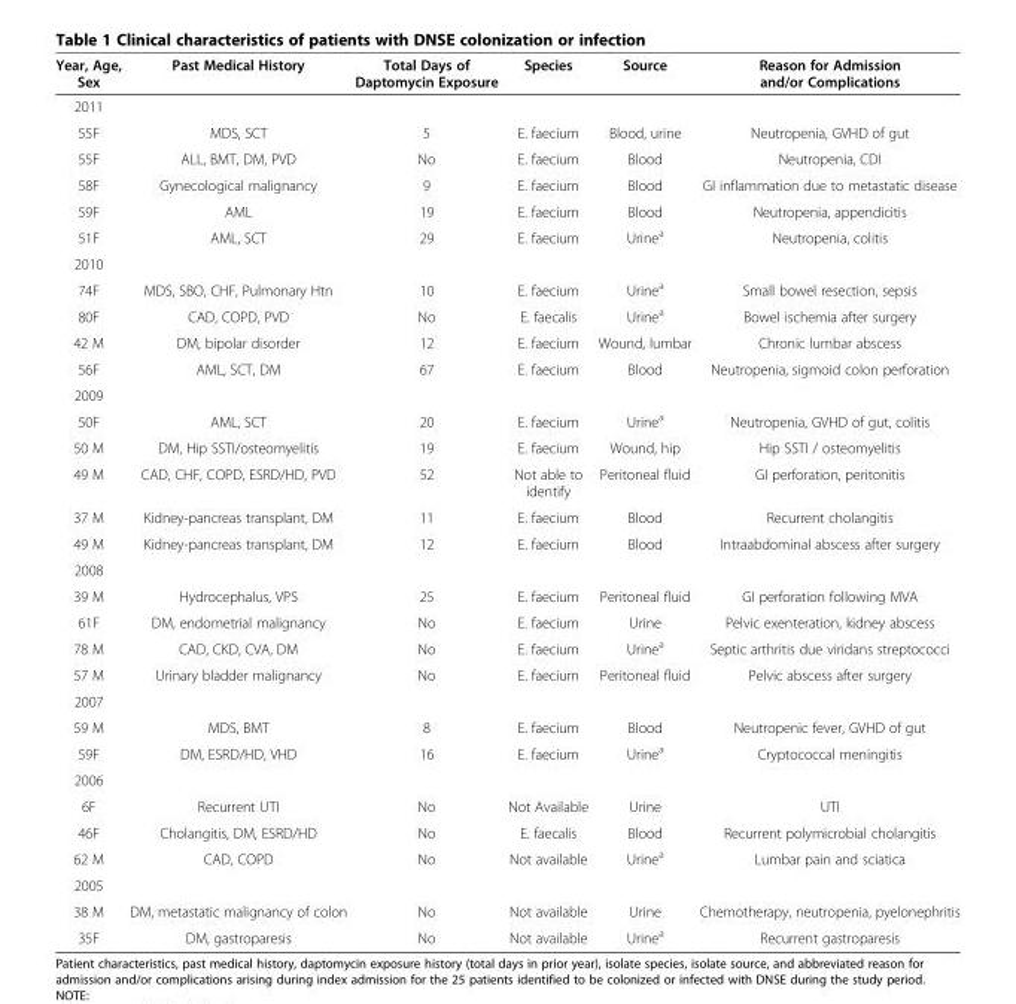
<table><thead><tr><td>Year, Age, Sex</td><td>Past Medical History</td><td>Total Days of Daptomycin Exposure</td><td>Species</td><td>Source</td><td>Reason for Admission and/or Complications</td></tr></thead><tbody><tr><td colspan="6">2011</td></tr><tr><td>55F</td><td>MDS, SCT</td><td>5</td><td>E. faecium</td><td>Blood, urine</td><td>Neutropenia, GVHD of gut</td></tr><tr><td>55F</td><td>ALL, BMT, DM, PVD</td><td>No</td><td>E. faecium</td><td>Blood</td><td>Neutropenia, CDI</td></tr><tr><td>58F</td><td>Gynecological malignancy</td><td>9</td><td>E. faecium</td><td>Blood</td><td>GI inflammation due to metastatic disease</td></tr><tr><td>59F</td><td>AML</td><td>19</td><td>E. faecium</td><td>Blood</td><td>Neutropenia, appendicitis</td></tr><tr><td>51F</td><td>AML, SCT</td><td>29</td><td>E. faecium</td><td>Urine<sup>a</sup></td><td>Neutropenia, colitis</td></tr><tr><td colspan="6">2010</td></tr><tr><td>74F</td><td>MDS, SBO, CHF, Pulmonary Htn</td><td>10</td><td>E. faecium</td><td>Urine<sup>a</sup></td><td>Small bowel resection, sepsis</td></tr><tr><td>80F</td><td>CAD, COPD, PVD</td><td>No</td><td>E. faecalis</td><td>Urine<sup>a</sup></td><td>Bowel ischemia after surgery</td></tr><tr><td>42 M</td><td>DM, bipolar disorder</td><td>12</td><td>E. faecium</td><td>Wound, lumbar</td><td>Chronic lumbar abscess</td></tr><tr><td>56F</td><td>AML, SCT, DM</td><td>67</td><td>E. faecium</td><td>Blood</td><td>Neutropenia, sigmoid colon perforation</td></tr><tr><td colspan="6">2009</td></tr><tr><td>50F</td><td>AML, SCT</td><td>20</td><td>E. faecium</td><td>Urine<sup>a</sup></td><td>Neutropenia, GVHD of gut, colitis</td></tr><tr><td>50 M</td><td>DM, Hip SSTI/osteomyelitis</td><td>19</td><td>E. faecium</td><td>Wound, hip</td><td>Hip SSTI / osteomyelitis</td></tr><tr><td>49 M</td><td>CAD, CHF, COPD, ESRD/HD, PVD</td><td>52</td><td>Not able to identify</td><td>Peritoneal fluid</td><td>GI perforation, peritonitis</td></tr><tr><td>37 M</td><td>Kidney-pancreas transplant, DM</td><td>11</td><td>E. faecium</td><td>Blood</td><td>Recurrent cholangitis</td></tr><tr><td>49 M</td><td>Kidney-pancreas transplant, DM</td><td>12</td><td>E. faecium</td><td>Blood</td><td>Intraabdominal abscess after surgery</td></tr><tr><td colspan="6">2008</td></tr><tr><td>39 M</td><td>Hydrocephalus, VPS</td><td>25</td><td>E. faecium</td><td>Peritoneal fluid</td><td>GI perforation following MVA</td></tr><tr><td>61F</td><td>DM, endometrial malignancy</td><td>No</td><td>E. faecium</td><td>Urine</td><td>Pelvic exenteration, kidney abscess</td></tr><tr><td>78 M</td><td>CAD, CKD, CVA, DM</td><td>No</td><td>E. faecium</td><td>Urine<sup>a</sup></td><td>Septic arthritis due viridans streptococci</td></tr><tr><td>57 M</td><td>Urinary bladder malignancy</td><td>No</td><td>E. faecium</td><td>Peritoneal fluid</td><td>Pelvic abscess after surgery</td></tr><tr><td colspan="6">2007</td></tr><tr><td>59 M</td><td>MDS, BMT</td><td>8</td><td>E. faecium</td><td>Blood</td><td>Neutropenic fever, GVHD of gut</td></tr><tr><td>59F</td><td>DM, ESRD/HD, VHD</td><td>16</td><td>E. faecium</td><td>Urine<sup>a</sup></td><td>Cryptococcal meningitis</td></tr><tr><td colspan="6">2006</td></tr><tr><td>6F</td><td>Recurrent UTI</td><td>No</td><td>Not Available</td><td>Urine</td><td>UTI</td></tr><tr><td>46F</td><td>Cholangitis, DM, ESRD/HD</td><td>No</td><td>E. faecalis</td><td>Blood</td><td>Recurrent polymicrobial cholangitis</td></tr><tr><td>62 M</td><td>CAD, COPD</td><td>No</td><td>Not available</td><td>Urine<sup>a</sup></td><td>Lumbar pain and sciatica</td></tr><tr><td colspan="6">2005</td></tr><tr><td>38 M</td><td>DM, metastatic malignancy of colon</td><td>No</td><td>Not available</td><td>Urine</td><td>Chemotherapy, neutropenia, pyelonephritis</td></tr><tr><td>35F</td><td>DM, gastroparesis</td><td>No</td><td>Not available</td><td>Urine<sup>a</sup></td><td>Recurrent gastroparesis</td></tr></tbody></table>